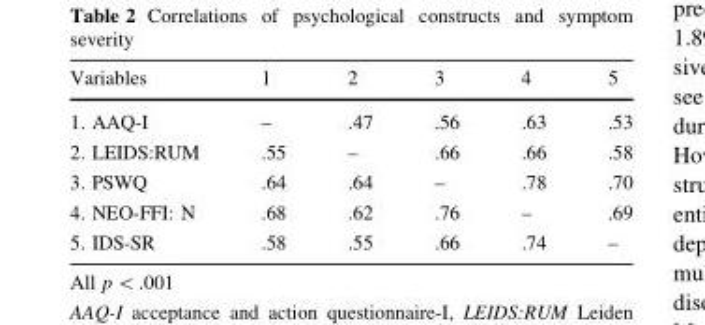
<table><thead><tr><td>Variables</td><td>1</td><td>2</td><td>3</td><td>4</td><td>5</td></tr></thead><tbody><tr><td>1. AAQ-I</td><td>–</td><td>.47</td><td>.56</td><td>.63</td><td>.53</td></tr><tr><td>2. LEIDS:RUM</td><td>.55</td><td>–</td><td>.66</td><td>.66</td><td>.58</td></tr><tr><td>3. PSWQ</td><td>.64</td><td>.64</td><td>–</td><td>.78</td><td>.70</td></tr><tr><td>4. NEO-FFI: N</td><td>.68</td><td>.62</td><td>.76</td><td>–</td><td>.69</td></tr><tr><td>5. IDS-SR</td><td>.58</td><td>.55</td><td>.66</td><td>.74</td><td>–</td></tr></tbody></table>